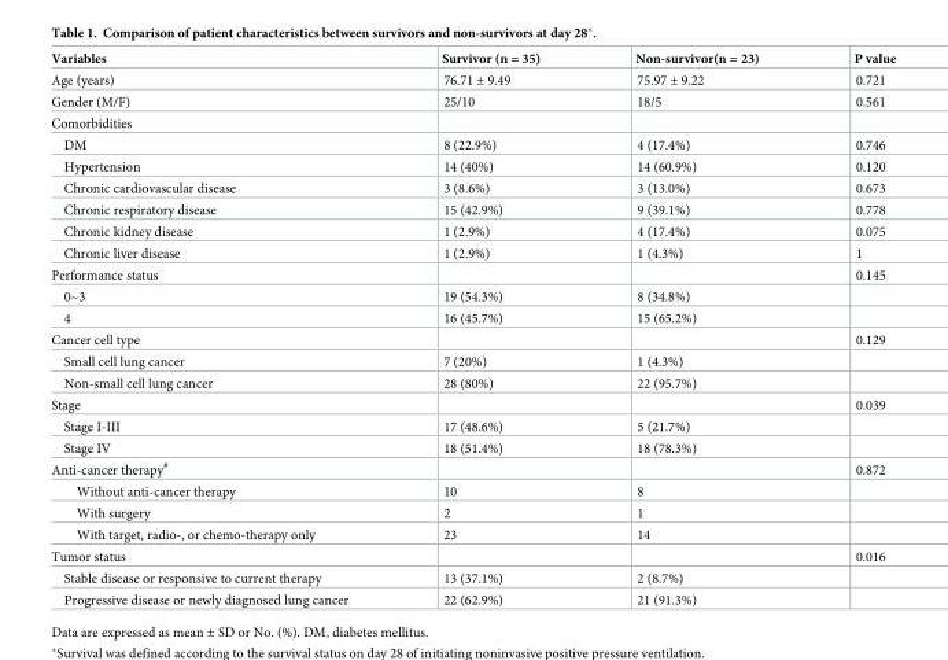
<table><thead><tr><td>Variables</td><td>Survivor (n = 35)</td><td>Non-survivor(n = 23)</td><td>P value</td></tr></thead><tbody><tr><td>Age (years)</td><td>76.71 ± 9.49</td><td>75.97 ± 9.22</td><td>0.721</td></tr><tr><td>Gender (M/F)</td><td>25/10</td><td>18/5</td><td>0.561</td></tr><tr><td colspan="4">Comorbidities</td></tr><tr><td>DM</td><td>8 (22.9%)</td><td>4 (17.4%)</td><td>0.746</td></tr><tr><td>Hypertension</td><td>14 (40%)</td><td>14 (60.9%)</td><td>0.120</td></tr><tr><td>Chronic cardiovascular disease</td><td>3 (8.6%)</td><td>3 (13.0%)</td><td>0.673</td></tr><tr><td>Chronic respiratory disease</td><td>15 (42.9%)</td><td>9 (39.1%)</td><td>0.778</td></tr><tr><td>Chronic kidney disease</td><td>1 (2.9%)</td><td>4 (17.4%)</td><td>0.075</td></tr><tr><td>Chronic liver disease</td><td>1 (2.9%)</td><td>1 (4.3%)</td><td>1</td></tr><tr><td>Performance status</td><td></td><td></td><td>0.145</td></tr><tr><td>0~3</td><td>19 (54.3%)</td><td>8 (34.8%)</td><td></td></tr><tr><td>4</td><td>16 (45.7%)</td><td>15 (65.2%)</td><td></td></tr><tr><td>Cancer cell type</td><td></td><td></td><td>0.129</td></tr><tr><td>Small cell lung cancer</td><td>7 (20%)</td><td>1 (4.3%)</td><td></td></tr><tr><td>Non-small cell lung cancer</td><td>28 (80%)</td><td>22 (95.7%)</td><td></td></tr><tr><td>Stage</td><td></td><td></td><td>0.039</td></tr><tr><td>Stage I-III</td><td>17 (48.6%)</td><td>5 (21.7%)</td><td></td></tr><tr><td>Stage IV</td><td>18 (51.4%)</td><td>18 (78.3%)</td><td></td></tr><tr><td>Anti-cancer therapy<sup>#</sup></td><td></td><td></td><td>0.872</td></tr><tr><td>Without anti-cancer therapy</td><td>10</td><td>8</td><td></td></tr><tr><td>With surgery</td><td>2</td><td>1</td><td></td></tr><tr><td>With target, radio-, or chemo-therapy only</td><td>23</td><td>14</td><td></td></tr><tr><td>Tumor status</td><td></td><td></td><td>0.016</td></tr><tr><td>Stable disease or responsive to current therapy</td><td>13 (37.1%)</td><td>2 (8.7%)</td><td></td></tr><tr><td>Progressive disease or newly diagnosed lung cancer</td><td>22 (62.9%)</td><td>21 (91.3%)</td><td></td></tr></tbody></table>